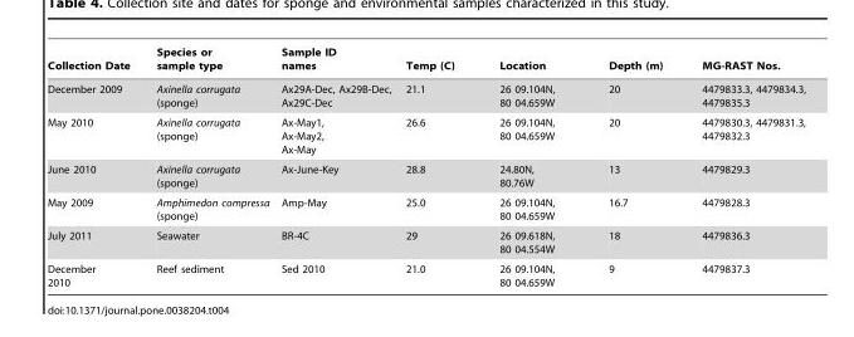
<table><thead><tr><td>Collection Date</td><td>Species or sample type</td><td>Sample ID names</td><td>Temp (C)</td><td>Location</td><td>Depth (m)</td><td>MG-RAST Nos.</td></tr></thead><tbody><tr><td>December 2009</td><td>Axinella corrugata (sponge)</td><td>Ax29A-Dec, Ax29B-Dec, Ax29C-Dec</td><td>21.1</td><td>26 09.104N, 80 04.659W</td><td>20</td><td>4479833.3, 4479834.3, 4479835.3</td></tr><tr><td>May 2010</td><td>Axinella corrugata (sponge)</td><td>Ax-May1, Ax-May2, Ax-May</td><td>26.6</td><td>26 09.104N, 80 04.659W</td><td>20</td><td>4479830.3, 4479831.3, 4479832.3</td></tr><tr><td>June 2010</td><td>Axinella corrugata (sponge)</td><td>Ax-June-Key</td><td>28.8</td><td>24.80N, 80.76W</td><td>13</td><td>4479829.3</td></tr><tr><td>May 2009</td><td>Amphimedon compressa (sponge)</td><td>Amp-May</td><td>25.0</td><td>26 09.104N, 80 04.659W</td><td>16.7</td><td>4479828.3</td></tr><tr><td>July 2011</td><td>Seawater</td><td>BR-4C</td><td>29</td><td>26 09.618N, 80 04.554W</td><td>18</td><td>4479836.3</td></tr><tr><td>December 2010</td><td>Reef sediment</td><td>Sed 2010</td><td>21.0</td><td>26 09.104N, 80 04.659W</td><td>9</td><td>4479837.3</td></tr></tbody></table>